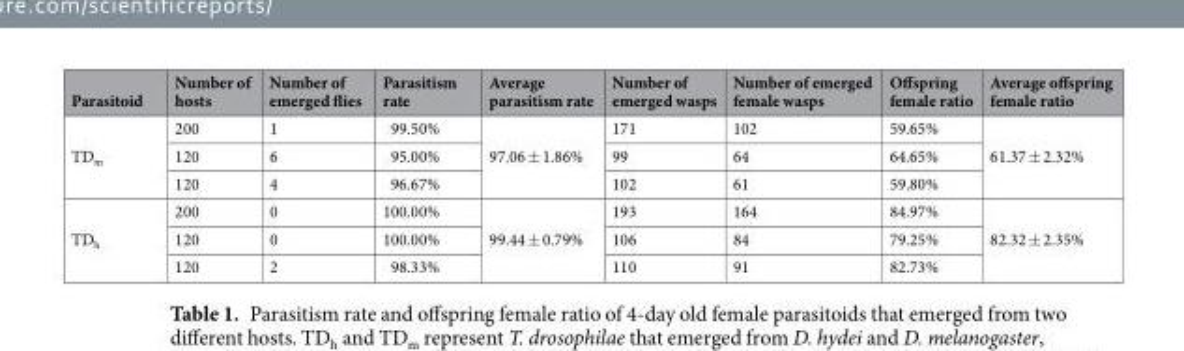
<table><thead><tr><td>Parasitoid</td><td>Number of hosts</td><td>Number of emerged flies</td><td>Parasitism rate</td><td>Average parasitism rate</td><td>Number of emerged wasps</td><td>Number of emerged female wasps</td><td>Offspring female ratio</td><td>Average offspring female ratio</td></tr></thead><tbody><tr><td rowspan="3">TD<sub>m</sub></td><td>200</td><td>1</td><td>99.50%</td><td rowspan="3">97.06 ± 1.86%</td><td>171</td><td>102</td><td>59.65%</td><td rowspan="3">61.37 ± 2.32%</td></tr><tr><td>120</td><td>6</td><td>95.00%</td><td>99</td><td>64</td><td>64.65%</td></tr><tr><td>120</td><td>4</td><td>96.67%</td><td>102</td><td>61</td><td>59.80%</td></tr><tr><td rowspan="3">TD<sub>h</sub></td><td>200</td><td>0</td><td>100.00%</td><td rowspan="3">99.44 ± 0.79%</td><td>193</td><td>164</td><td>84.97%</td><td rowspan="3">82.32 ± 2.35%</td></tr><tr><td>120</td><td>0</td><td>100.00%</td><td>106</td><td>84</td><td>79.25%</td></tr><tr><td>120</td><td>2</td><td>98.33%</td><td>110</td><td>91</td><td>82.73%</td></tr></tbody></table>